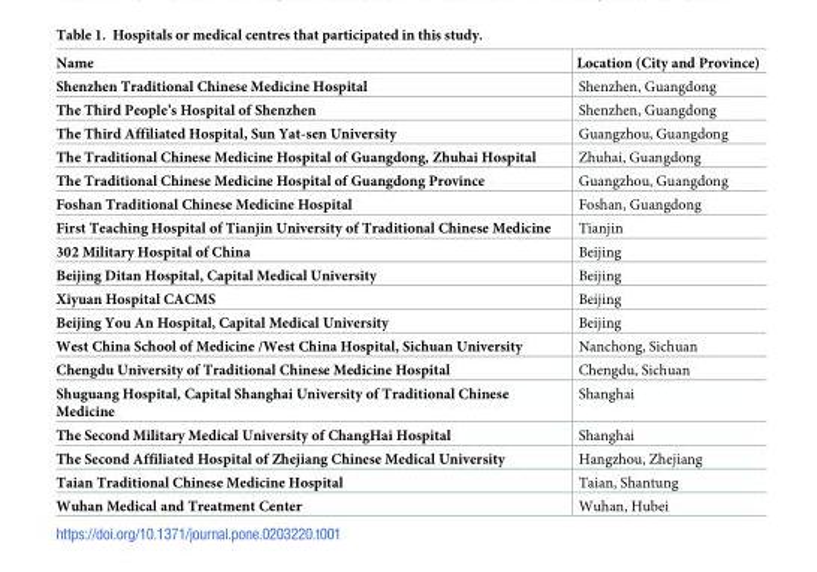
<table><thead><tr><td>Name</td><td>Location (City and Province)</td></tr></thead><tbody><tr><td>Shenzhen Traditional Chinese Medicine Hospital</td><td>Shenzhen, Guangdong</td></tr><tr><td>The Third People’s Hospital of Shenzhen</td><td>Shenzhen, Guangdong</td></tr><tr><td>The Third Affiliated Hospital, Sun Yat-sen University</td><td>Guangzhou, Guangdong</td></tr><tr><td>The Traditional Chinese Medicine Hospital of Guangdong, Zhuhai Hospital</td><td>Zhuhai, Guangdong</td></tr><tr><td>The Traditional Chinese Medicine Hospital of Guangdong Province</td><td>Guangzhou, Guangdong</td></tr><tr><td>Foshan Traditional Chinese Medicine Hospital</td><td>Foshan, Guangdong</td></tr><tr><td>First Teaching Hospital of Tianjin University of Traditional Chinese Medicine</td><td>Tianjin</td></tr><tr><td>302 Military Hospital of China</td><td>Beijing</td></tr><tr><td>Beijing Ditan Hospital, Capital Medical University</td><td>Beijing</td></tr><tr><td>Xiyuan Hospital CACMS</td><td>Beijing</td></tr><tr><td>Beijing You An Hospital, Capital Medical University</td><td>Beijing</td></tr><tr><td>West China School of Medicine /West China Hospital, Sichuan University</td><td>Nanchong, Sichuan</td></tr><tr><td>Chengdu University of Traditional Chinese Medicine Hospital</td><td>Chengdu, Sichuan</td></tr><tr><td>Shuguang Hospital, Capital Shanghai University of Traditional Chinese Medicine</td><td>Shanghai</td></tr><tr><td>The Second Military Medical University of ChangHai Hospital</td><td>Shanghai</td></tr><tr><td>The Second Affiliated Hospital of Zhejiang Chinese Medical University</td><td>Hangzhou, Zhejiang</td></tr><tr><td>Taian Traditional Chinese Medicine Hospital</td><td>Taian, Shantung</td></tr><tr><td>Wuhan Medical and Treatment Center</td><td>Wuhan, Hubei</td></tr></tbody></table>